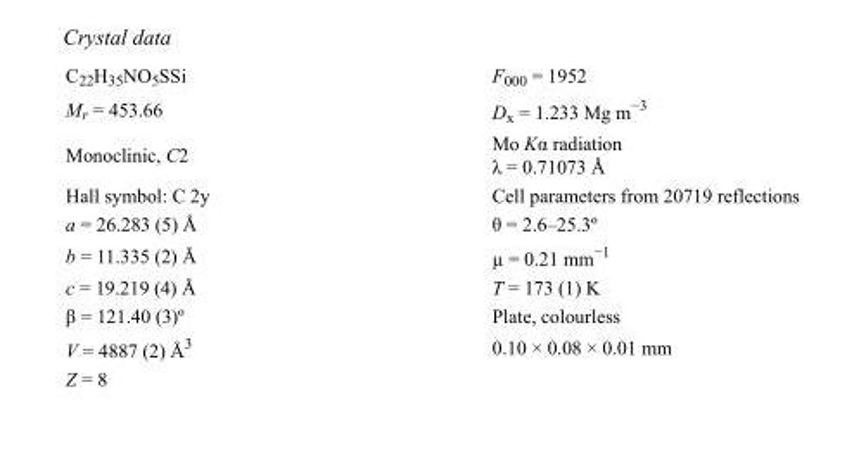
<table><tbody><tr><td>C<sub>22</sub>H<sub>35</sub>NO<sub>5</sub>SSi</td><td>F<sub>000</sub> = 1952</td></tr><tr><td>M<sub>r</sub> = 453.66</td><td>D<sub>x</sub> = 1.233 Mg m<sup>−3</sup></td></tr><tr><td>Monoclinic, C2</td><td>Mo Kα radiation λ = 0.71073 Å</td></tr><tr><td>Hall symbol: C 2y</td><td>Cell parameters from 20719 reflections</td></tr><tr><td>a = 26.283 (5) Å</td><td>θ = 2.6–25.3º</td></tr><tr><td>b = 11.335 (2) Å</td><td>µ = 0.21 mm<sup>−1</sup></td></tr><tr><td>c = 19.219 (4) Å</td><td>T = 173 (1) K</td></tr><tr><td>β = 121.40 (3)º</td><td>Plate, colourless</td></tr><tr><td>V = 4887 (2) Å<sup>3</sup></td><td>0.10 × 0.08 × 0.01 mm</td></tr><tr><td>Z = 8</td><td></td></tr></tbody></table>